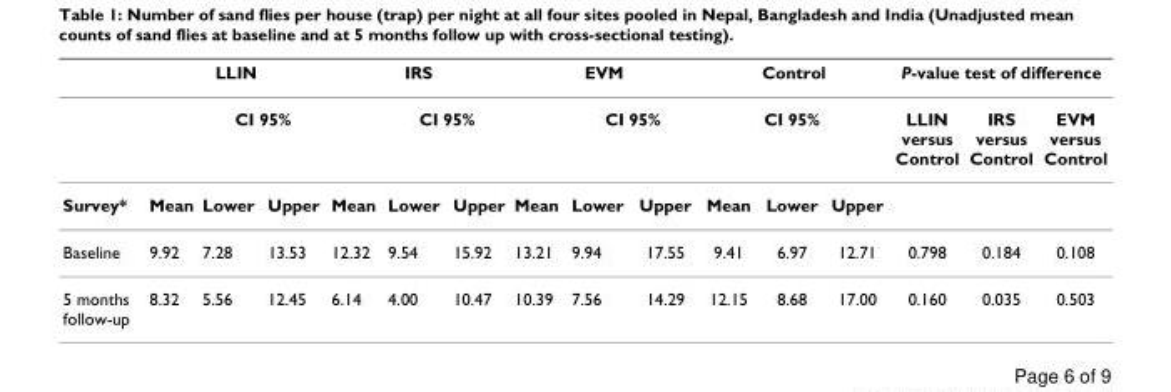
<table><thead><tr><td rowspan="3">Survey*</td><td colspan="3">LLIN</td><td colspan="3">IRS</td><td colspan="3">EVM</td><td colspan="3">Control</td><td colspan="3">P-value test of difference</td></tr><tr><td rowspan="2">Mean</td><td colspan="2">CI 95%</td><td rowspan="2">Mean</td><td colspan="2">CI 95%</td><td rowspan="2">Mean</td><td colspan="2">CI 95%</td><td rowspan="2">Mean</td><td rowspan="2">CI 95% Lower</td><td rowspan="2">Upper</td><td rowspan="2">LLIN versus Control</td><td rowspan="2">IRS versus Control</td><td rowspan="2">EVM versus Control</td></tr><tr><td>Lower</td><td>Upper</td><td>Lower</td><td>Upper</td><td>Lower</td><td>Upper</td></tr></thead><tbody><tr><td>Baseline</td><td>9.92</td><td>7.28</td><td>13.53</td><td>12.32</td><td>9.54</td><td>15.92</td><td>13.21</td><td>9.94</td><td>17.55</td><td>9.41</td><td>6.97</td><td>12.71</td><td>0.798</td><td>0.184</td><td>0.108</td></tr><tr><td>5 months follow-up</td><td>8.32</td><td>5.56</td><td>12.45</td><td>6.14</td><td>4.00</td><td>10.47</td><td>10.39</td><td>7.56</td><td>14.29</td><td>12.15</td><td>8.68</td><td>17.00</td><td>0.160</td><td>0.035</td><td>0.503</td></tr></tbody></table>